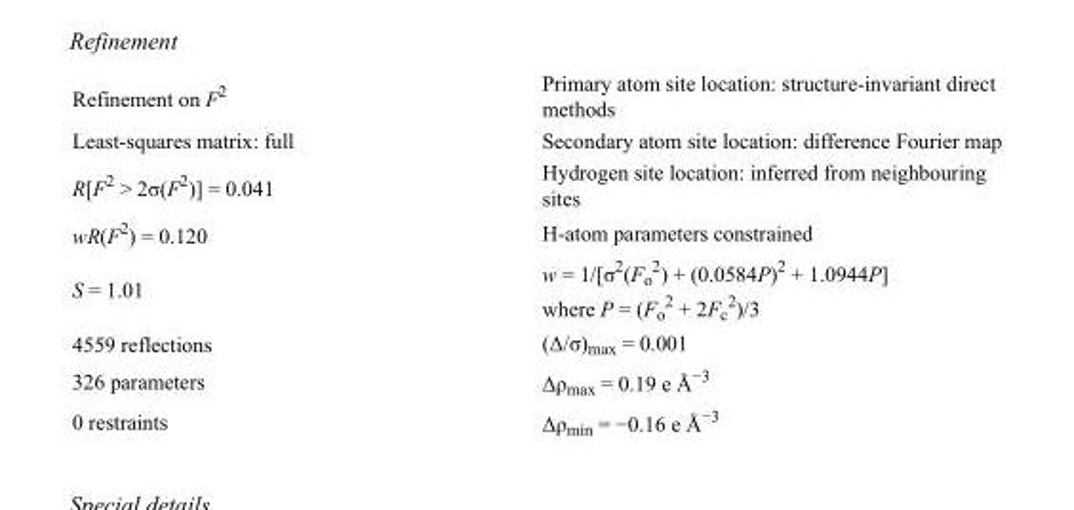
<table><tbody><tr><td>Refinement on F<sup>2</sup></td><td>Primary atom site location: structure-invariant direct methods</td></tr><tr><td>Least-squares matrix: full</td><td>Secondary atom site location: difference Fourier map</td></tr><tr><td>R[F<sup>2</sup> &gt; 2σ(F<sup>2</sup>)] = 0.041</td><td>Hydrogen site location: inferred from neighbouring sites</td></tr><tr><td>wR(F<sup>2</sup>) = 0.120</td><td>H-atom parameters constrained</td></tr><tr><td>S = 1.01</td><td>w = 1/[σ<sup>2</sup>(F<sub>o</sub> <sup>2</sup>) + (0.0584P)<sup>2</sup> + 1.0944P] where P = (F<sub>o</sub> <sup>2</sup> + 2F<sub>c</sub> <sup>2</sup>)/3</td></tr><tr><td>4559 reflections</td><td>(Δ/σ)<sub>max</sub> = 0.001</td></tr><tr><td>326 parameters</td><td>Δρ<sub>max</sub> = 0.19 e Å<sup>−3</sup></td></tr><tr><td>0 restraints</td><td>Δρ<sub>min</sub> = −0.16 e Å<sup>−3</sup></td></tr></tbody></table>